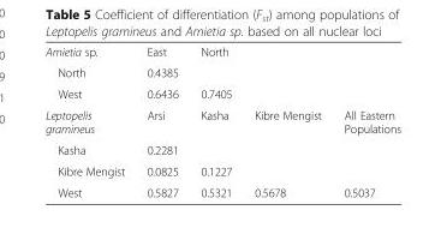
<table><tbody><tr><td>Amietia sp.</td><td>East</td><td>North</td><td></td><td></td></tr><tr><td>North</td><td>0.4385</td><td></td><td></td><td></td></tr><tr><td>West</td><td>0.6436</td><td>0.7405</td><td></td><td></td></tr><tr><td>Leptopelis gramineus</td><td>Arsi</td><td>Kasha</td><td>Kibre Mengist</td><td>All Eastern Populations</td></tr><tr><td>Kasha</td><td>0.2281</td><td></td><td></td><td></td></tr><tr><td>Kibre Mengist</td><td>0.0825</td><td>0.1227</td><td></td><td></td></tr><tr><td>West</td><td>0.5827</td><td>0.5321</td><td>0.5678</td><td>0.5037</td></tr></tbody></table>